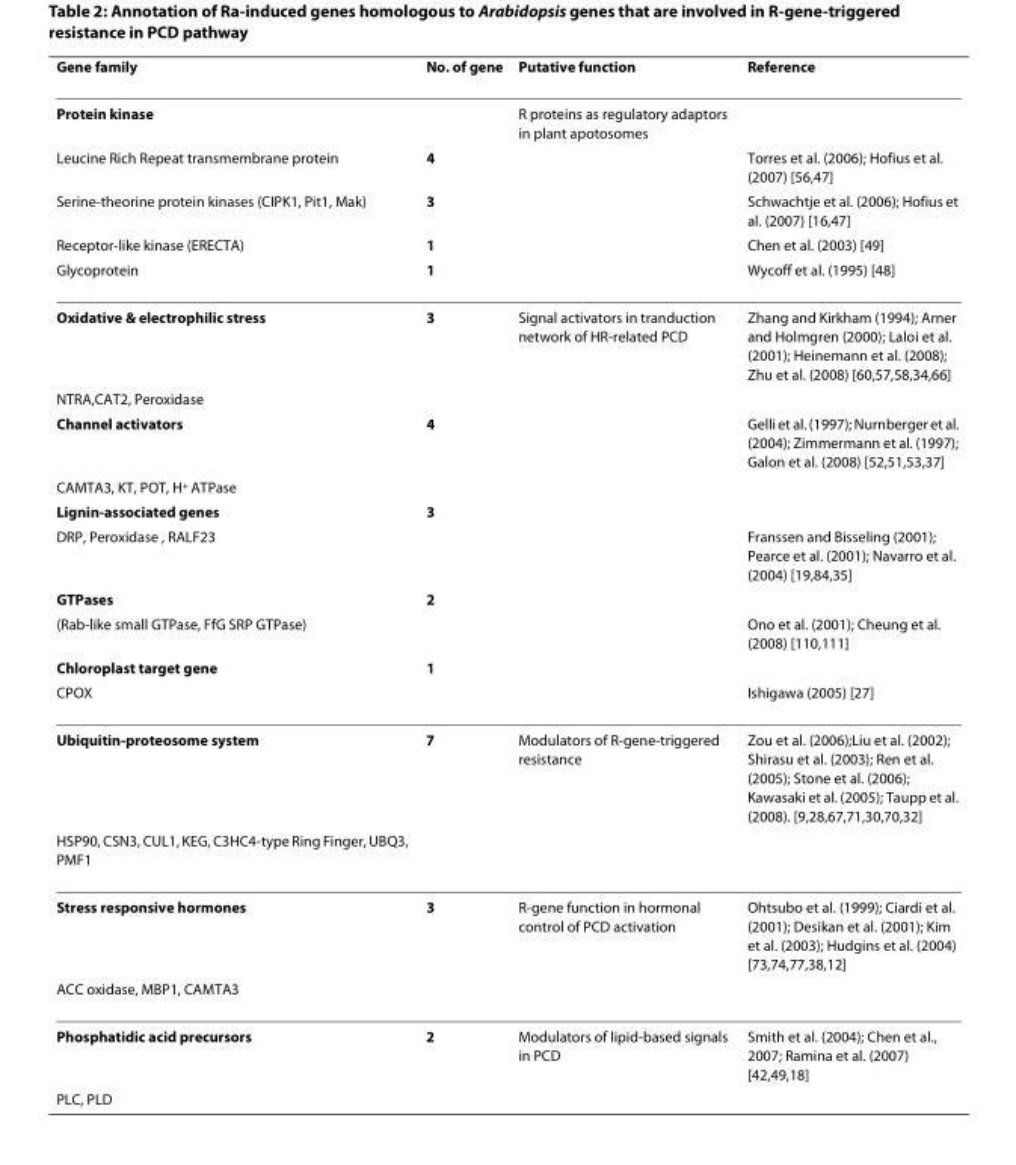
<table><thead><tr><td>Gene family</td><td>No. of gene</td><td>Putative function</td><td>Reference</td></tr></thead><tbody><tr><td>Protein kinase</td><td></td><td>R proteins as regulatory adaptors in plant apotosomes</td><td></td></tr><tr><td>Leucine Rich Repeat transmembrane protein</td><td>4</td><td></td><td>Torres et al. (2006); Hofius et al. (2007) [56,47]</td></tr><tr><td>Serine-theorine protein kinases (CIPK1, Pit1, Mak)</td><td>3</td><td></td><td>Schwachtje et al. (2006); Hofius et al. (2007) [16,47]</td></tr><tr><td>Receptor-like kinase (ERECTA)</td><td>1</td><td></td><td>Chen et al. (2003) [49]</td></tr><tr><td>Glycoprotein</td><td>1</td><td></td><td>Wycoff et al. (1995) [48]</td></tr><tr><td>Oxidative &amp; electrophilic stress</td><td>3</td><td>Signal activators in tranduction network of HR-related PCD</td><td>Zhang and Kirkham (1994); Arner and Holmgren (2000); Laloi et al. (2001); Heinemann et al. (2008); Zhu et al. (2008) [60,57,58,34,66]</td></tr><tr><td colspan="4">NTRA,CAT2, Peroxidase</td></tr><tr><td>Channel activators</td><td>4</td><td></td><td>Gelli et al. (1997); Nurnberger et al. (2004); Zimmermann et al. (1997); Galon et al. (2008) [52,51,53,37]</td></tr><tr><td colspan="4">CAMTA3, KT, POT, H<sup>+</sup> ATPase</td></tr><tr><td>Lignin-associated genes</td><td>3</td><td></td><td></td></tr><tr><td>DRP, Peroxidase , RALF23</td><td></td><td></td><td>Franssen and Bisseling (2001); Pearce et al. (2001); Navarro et al. (2004) [19,84,35]</td></tr><tr><td>GTPases</td><td>2</td><td></td><td></td></tr><tr><td>(Rab-like small GTPase, FfG SRP GTPase)</td><td></td><td></td><td>Ono et al. (2001); Cheung et al. (2008) [110,111]</td></tr><tr><td>Chloroplast target gene</td><td>1</td><td></td><td></td></tr><tr><td>CPOX</td><td></td><td></td><td>Ishigawa (2005) [27]</td></tr><tr><td>Ubiquitin-proteosome system</td><td>7</td><td>Modulators of R-gene-triggered resistance</td><td>Zou et al. (2006);Liu et al. (2002); Shirasu et al. (2003); Ren et al. (2005); Stone et al. (2006); Kawasaki et al. (2005); Taupp et al. (2008). [9,28,67,71,30,70,32]</td></tr><tr><td colspan="4">HSP90, CSN3, CUL1, KEG, C3HC4-type Ring Finger, UBQ3, PMF1</td></tr><tr><td>Stress responsive hormones</td><td>3</td><td>R-gene function in hormonal control of PCD activation</td><td>Ohtsubo et al. (1999); Ciardi et al. (2001); Desikan et al. (2001); Kim et al. (2003); Hudgins et al. (2004) [73,74,77,38,12]</td></tr><tr><td colspan="4">ACC oxidase, MBP1, CAMTA3</td></tr><tr><td>Phosphatidic acid precursors</td><td>2</td><td>Modulators of lipid-based signals in PCD</td><td>Smith et al. (2004); Chen et al., 2007; Ramina et al. (2007) [42,49,18]</td></tr><tr><td>PLC, PLD</td><td></td><td></td><td></td></tr></tbody></table>